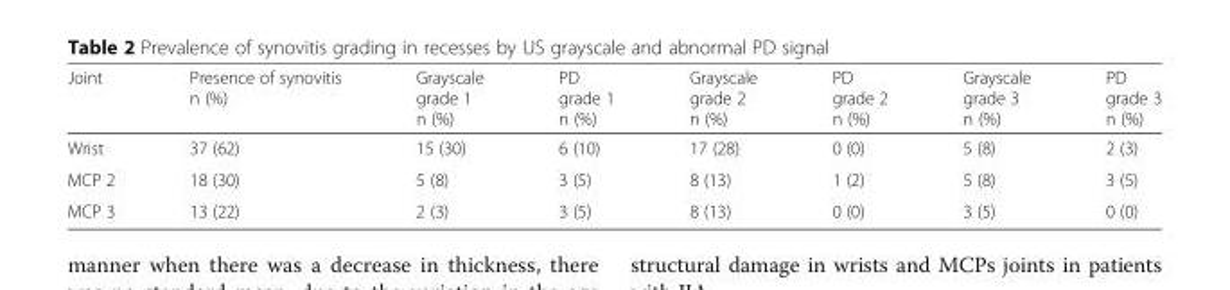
<table><thead><tr><td>Joint</td><td>Presence of synovitis n (%)</td><td>Grayscale grade 1 n (%)</td><td>PD grade 1 n (%)</td><td>Grayscale grade 2 n (%)</td><td>PD grade 2 n (%)</td><td>Grayscale grade 3 n (%)</td><td>PD grade 3 n (%)</td></tr></thead><tbody><tr><td>Wrist</td><td>37 (62)</td><td>15 (30)</td><td>6 (10)</td><td>17 (28)</td><td>0 (0)</td><td>5 (8)</td><td>2 (3)</td></tr><tr><td>MCP 2</td><td>18 (30)</td><td>5 (8)</td><td>3 (5)</td><td>8 (13)</td><td>1 (2)</td><td>5 (8)</td><td>3 (5)</td></tr><tr><td>MCP 3</td><td>13 (22)</td><td>2 (3)</td><td>3 (5)</td><td>8 (13)</td><td>0 (0)</td><td>3 (5)</td><td>0 (0)</td></tr></tbody></table>